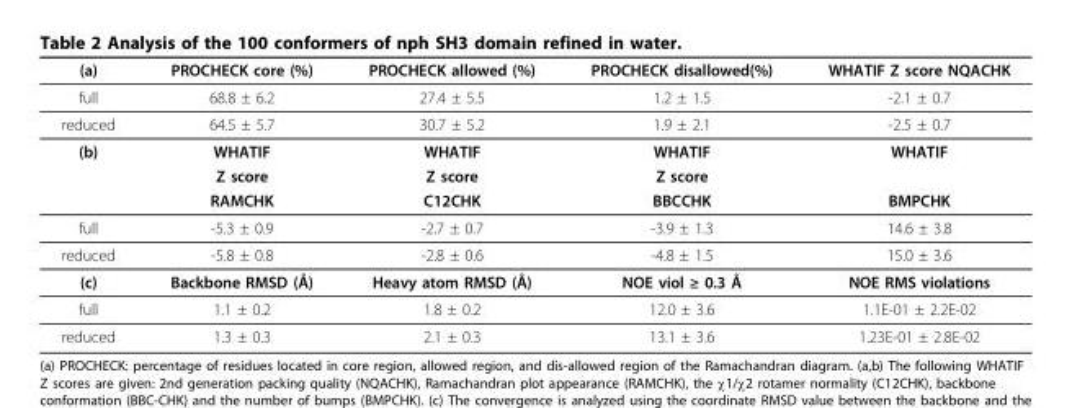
<table><thead><tr><td>(a)</td><td>PROCHECK core (%)</td><td>PROCHECK allowed (%)</td><td>PROCHECK disallowed(%)</td><td>WHATIF Z score NQACHK</td></tr></thead><tbody><tr><td>full</td><td>68.8 ± 6.2</td><td>27.4 ± 5.5</td><td>1.2 ± 1.5</td><td>-2.1 ± 0.7</td></tr><tr><td>reduced</td><td>64.5 ± 5.7</td><td>30.7 ± 5.2</td><td>1.9 ± 2.1</td><td>-2.5 ± 0.7</td></tr><tr><td rowspan="3">(b)</td><td>WHATIF</td><td>WHATIF</td><td>WHATIF</td><td>WHATIF</td></tr><tr><td>Z score</td><td>Z score</td><td>Z score</td><td></td></tr><tr><td>RAMCHK</td><td>C12CHK</td><td>BBCCHK</td><td>BMPCHK</td></tr><tr><td>full</td><td>-5.3 ± 0.9</td><td>-2.7 ± 0.7</td><td>-3.9 ± 1.3</td><td>14.6 ± 3.8</td></tr><tr><td>reduced</td><td>-5.8 ± 0.8</td><td>-2.8 ± 0.6</td><td>-4.8 ± 1.5</td><td>15.0 ± 3.6</td></tr><tr><td>(c)</td><td>Backbone RMSD (Å)</td><td>Heavy atom RMSD (Å)</td><td>NOE viol ≥ 0.3 Å</td><td>NOE RMS violations</td></tr><tr><td>full</td><td>1.1 ± 0.2</td><td>1.8 ± 0.2</td><td>12.0 ± 3.6</td><td>1.1E-01 ± 2.2E-02</td></tr><tr><td>reduced</td><td>1.3 ± 0.3</td><td>2.1 ± 0.3</td><td>13.1 ± 3.6</td><td>1.23E-01 ± 2.8E-02</td></tr></tbody></table>